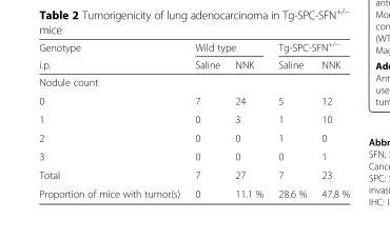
<table><thead><tr><td rowspan="2">Genotype i.p.</td><td colspan="2">Wild type</td><td colspan="2">Tg-SPC-SFN<sup>+/−</sup></td></tr><tr><td>Saline</td><td>NNK</td><td>Saline</td><td>NNK</td></tr></thead><tbody><tr><td colspan="5">Nodule count</td></tr><tr><td>0</td><td>7</td><td>24</td><td>5</td><td>12</td></tr><tr><td>1</td><td>0</td><td>3</td><td>1</td><td>10</td></tr><tr><td>2</td><td>0</td><td>0</td><td>1</td><td>0</td></tr><tr><td>3</td><td>0</td><td>0</td><td>0</td><td>1</td></tr><tr><td>Total</td><td>7</td><td>27</td><td>7</td><td>23</td></tr><tr><td>Proportion of mice with tumor(s)</td><td>0</td><td>11.1 %</td><td>28.6 %</td><td>47.8 %</td></tr></tbody></table>